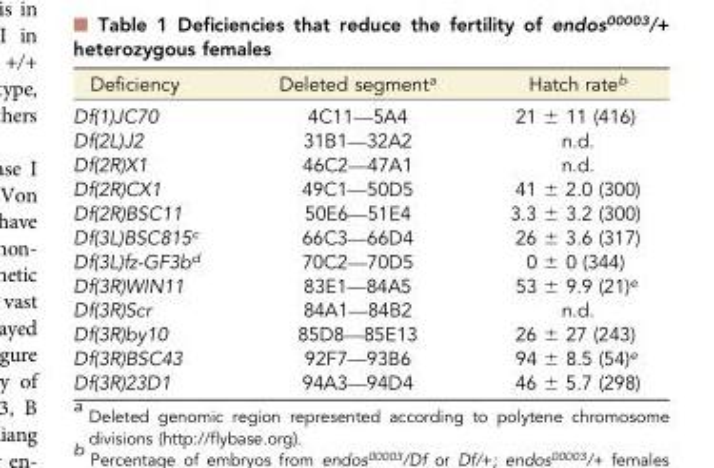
<table><thead><tr><td>Deficiency</td><td>Deleted segment<sup>a</sup></td><td>Hatch rate<sup>b</sup></td></tr></thead><tbody><tr><td>Df(1)JC70</td><td>4C11—5A4</td><td>21 ± 11 (416)</td></tr><tr><td>Df(2L)J2</td><td>31B1—32A2</td><td>n.d.</td></tr><tr><td>Df(2R)X1</td><td>46C2—47A1</td><td>n.d.</td></tr><tr><td>Df(2R)CX1</td><td>49C1—50D5</td><td>41 ± 2.0 (300)</td></tr><tr><td>Df(2R)BSC11</td><td>50E6—51E4</td><td>3.3 ± 3.2 (300)</td></tr><tr><td>Df(3L)BSC815<sup>c</sup></td><td>66C3—66D4</td><td>26 ± 3.6 (317)</td></tr><tr><td>Df(3L)fz-GF3b<sup>d</sup></td><td>70C2—70D5</td><td>0 ± 0 (344)</td></tr><tr><td>Df(3R)WIN11</td><td>83E1—84A5</td><td>53 ± 9.9 (21)<sup>e</sup></td></tr><tr><td>Df(3R)Scr</td><td>84A1—84B2</td><td>n.d.</td></tr><tr><td>Df(3R)by10</td><td>85D8—85E13</td><td>26 ± 27 (243)</td></tr><tr><td>Df(3R)BSC43</td><td>92F7—93B6</td><td>94 ± 8.5 (54)<sup>e</sup></td></tr><tr><td>Df(3R)23D1</td><td>94A3—94D4</td><td>46 ± 5.7 (298)</td></tr></tbody></table>